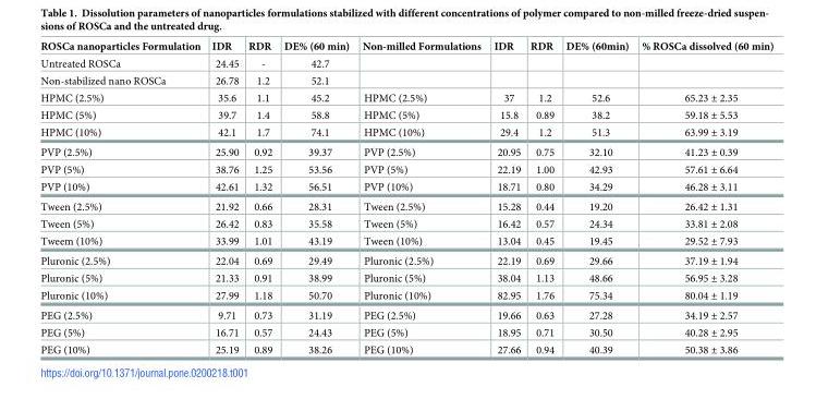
<table><thead><tr><td>ROSCa nanoparticles Formulation</td><td>IDR</td><td>RDR</td><td>DE% (60 min)</td><td>Non-milled Formulations</td><td>IDR</td><td>RDR</td><td>DE% (60min)</td><td>% ROSCa dissolved (60 min)</td></tr></thead><tbody><tr><td>Untreated ROSCa</td><td>24.45</td><td>-</td><td>42.7</td><td></td><td></td><td></td><td></td><td></td></tr><tr><td>Non-stabilized nano ROSCa</td><td>26.78</td><td>1.2</td><td>52.1</td><td></td><td></td><td></td><td></td><td></td></tr><tr><td>HPMC (2.5%)</td><td>35.6</td><td>1.1</td><td>45.2</td><td>HPMC (2.5%)</td><td>37</td><td>1.2</td><td>52.6</td><td>65.23 ± 2.35</td></tr><tr><td>HPMC (5%)</td><td>39.7</td><td>1.4</td><td>58.8</td><td>HPMC (5%)</td><td>15.8</td><td>0.89</td><td>38.2</td><td>59.18 ± 5.53</td></tr><tr><td>HPMC (10%)</td><td>42.1</td><td>1.7</td><td>74.1</td><td>HPMC (10%)</td><td>29.4</td><td>1.2</td><td>51.3</td><td>63.99 ± 3.19</td></tr><tr><td>PVP (2.5%)</td><td>25.90</td><td>0.92</td><td>39.37</td><td>PVP (2.5%)</td><td>20.95</td><td>0.75</td><td>32.10</td><td>41.23 ± 0.39</td></tr><tr><td>PVP (5%)</td><td>38.76</td><td>1.25</td><td>53.56</td><td>PVP (5%)</td><td>22.19</td><td>1.00</td><td>42.93</td><td>57.61 ± 6.64</td></tr><tr><td>PVP (10%)</td><td>42.61</td><td>1.32</td><td>56.51</td><td>PVP (10%)</td><td>18.71</td><td>0.80</td><td>34.29</td><td>46.28 ± 3.11</td></tr><tr><td>Tween (2.5%)</td><td>21.92</td><td>0.66</td><td>28.31</td><td>Tween (2.5%)</td><td>15.28</td><td>0.44</td><td>19.20</td><td>26.42 ± 1.31</td></tr><tr><td>Tween (5%)</td><td>26.42</td><td>0.83</td><td>35.58</td><td>Tween (5%)</td><td>16.42</td><td>0.57</td><td>24.34</td><td>33.81 ± 2.08</td></tr><tr><td>Tweem (10%)</td><td>33.99</td><td>1.01</td><td>43.19</td><td>Tween (10%)</td><td>13.04</td><td>0.45</td><td>19.45</td><td>29.52 ± 7.93</td></tr><tr><td>Pluronic (2.5%)</td><td>22.04</td><td>0.69</td><td>29.49</td><td>Pluronic (2.5%)</td><td>22.19</td><td>0.69</td><td>29.66</td><td>37.19 ± 1.94</td></tr><tr><td>Pluronic (5%)</td><td>21.33</td><td>0.91</td><td>38.99</td><td>Pluronic (5%)</td><td>38.04</td><td>1.13</td><td>48.66</td><td>56.95 ± 3.28</td></tr><tr><td>Pluronic (10%)</td><td>27.99</td><td>1.18</td><td>50.70</td><td>Pluronic (10%)</td><td>82.95</td><td>1.76</td><td>75.34</td><td>80.04 ± 1.19</td></tr><tr><td>PEG (2.5%)</td><td>9.71</td><td>0.73</td><td>31.19</td><td>PEG (2.5%)</td><td>19.66</td><td>0.63</td><td>27.28</td><td>34.19 ± 2.57</td></tr><tr><td>PEG (5%)</td><td>16.71</td><td>0.57</td><td>24.43</td><td>PEG (5%)</td><td>18.95</td><td>0.71</td><td>30.50</td><td>40.28 ± 2.95</td></tr><tr><td>PEG (10%)</td><td>25.19</td><td>0.89</td><td>38.26</td><td>PEG (10%)</td><td>27.66</td><td>0.94</td><td>40.39</td><td>50.38 ± 3.86</td></tr></tbody></table>